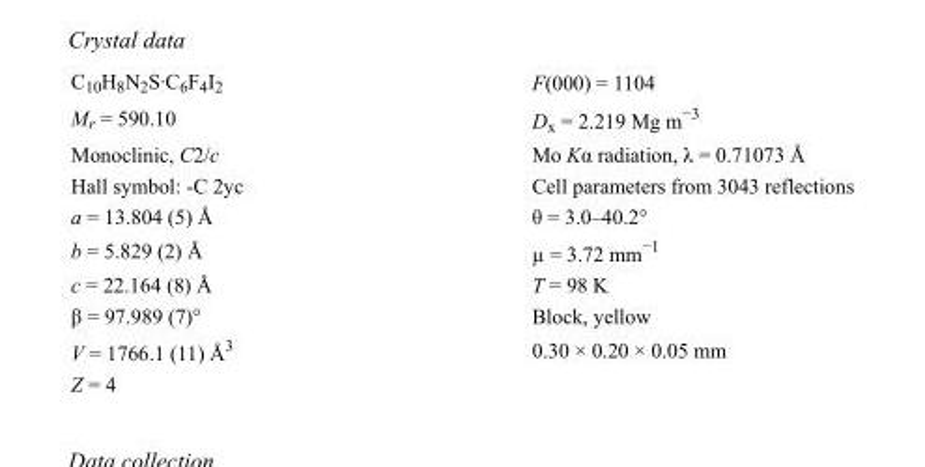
<table><tbody><tr><td>C<sub>10</sub>H<sub>8</sub>N<sub>2</sub>S·C<sub>6</sub>F<sub>4</sub>I<sub>2</sub></td><td>F(000) = 1104</td></tr><tr><td>M<sub>r</sub> = 590.10</td><td>D<sub>x</sub> = 2.219 Mg m<sup>−3</sup></td></tr><tr><td>Monoclinic, C2/c</td><td>Mo Kα radiation, λ = 0.71073 Å</td></tr><tr><td>Hall symbol: -C 2yc</td><td>Cell parameters from 3043 reflections</td></tr><tr><td>a = 13.804 (5) Å</td><td>θ = 3.0–40.2°</td></tr><tr><td>b = 5.829 (2) Å</td><td>µ = 3.72 mm<sup>−1</sup></td></tr><tr><td>c = 22.164 (8) Å</td><td>T = 98 K</td></tr><tr><td>β = 97.989 (7)°</td><td>Block, yellow</td></tr><tr><td>V = 1766.1 (11) Å<sup>3</sup></td><td>0.30 × 0.20 × 0.05 mm</td></tr><tr><td>Z = 4</td><td></td></tr></tbody></table>